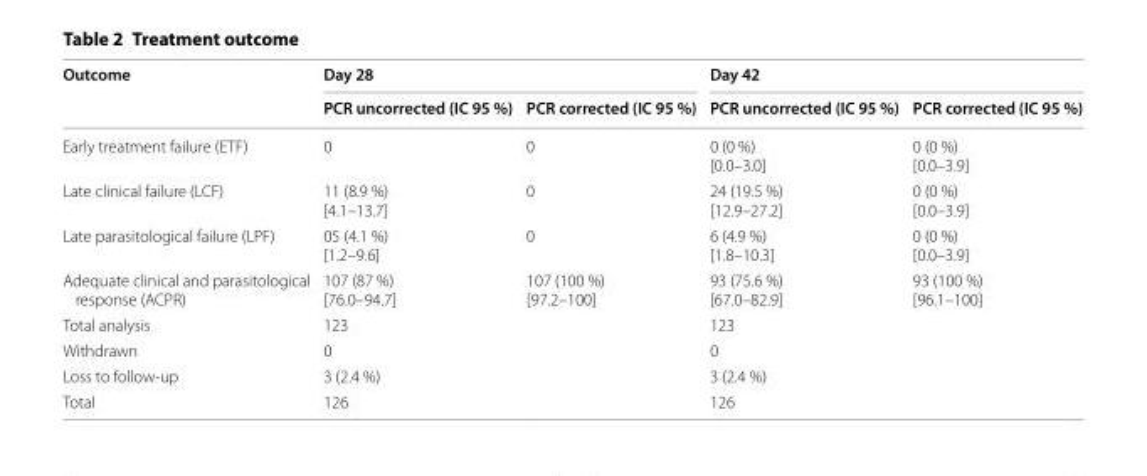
<table><thead><tr><td rowspan="2">Outcome</td><td colspan="2">Day 28</td><td colspan="2">Day 42</td></tr><tr><td>PCR uncorrected (IC 95 %)</td><td>PCR corrected (IC 95 %)</td><td>PCR uncorrected (IC 95 %)</td><td>PCR corrected (IC 95 %)</td></tr></thead><tbody><tr><td>Early treatment failure (ETF)</td><td>0</td><td>0</td><td>0 (0 %) [0.0–3.0]</td><td>0 (0 %) [0.0–3.9]</td></tr><tr><td>Late clinical failure (LCF)</td><td>11 (8.9 %) [4.1–13.7]</td><td>0</td><td>24 (19.5 %) [12.9–27.2]</td><td>0 (0 %) [0.0–3.9]</td></tr><tr><td>Late parasitological failure (LPF)</td><td>05 (4.1 %) [1.2–9.6]</td><td>0</td><td>6 (4.9 %) [1.8–10.3]</td><td>0 (0 %) [0.0–3.9]</td></tr><tr><td>Adequate clinical and parasitological response (ACPR)</td><td>107 (87 %) [76.0–94.7]</td><td>107 (100 %) [97.2–100]</td><td>93 (75.6 %) [67.0–82.9]</td><td>93 (100 %) [96.1–100]</td></tr><tr><td>Total analysis</td><td colspan="2">123</td><td colspan="2">123</td></tr><tr><td>Withdrawn</td><td colspan="2">0</td><td colspan="2">0</td></tr><tr><td>Loss to follow‑up</td><td colspan="2">3 (2.4 %)</td><td colspan="2">3 (2.4 %)</td></tr><tr><td>Total</td><td colspan="2">126</td><td colspan="2">126</td></tr></tbody></table>